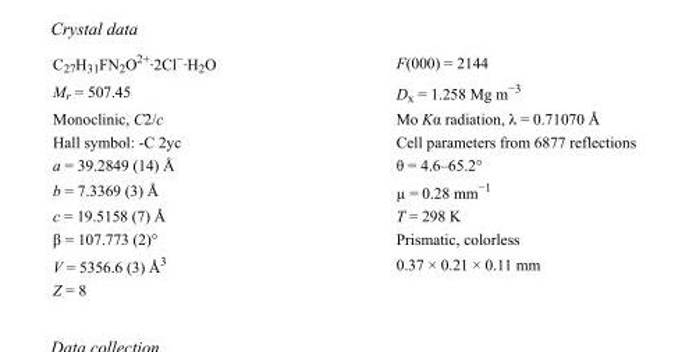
<table><tbody><tr><td>C<sub>27</sub>H<sub>31</sub>FN<sub>2</sub>O<sup>2+</sup>·2Cl<sup>−</sup>·H<sub>2</sub>O</td><td>F(000) = 2144</td></tr><tr><td>M<sub>r</sub> = 507.45</td><td>D<sub>x</sub> = 1.258 Mg m<sup>−3</sup></td></tr><tr><td>Monoclinic, C2/c</td><td>Mo Kα radiation, λ = 0.71070 Å</td></tr><tr><td>Hall symbol: -C 2yc</td><td>Cell parameters from 6877 reflections</td></tr><tr><td>a = 39.2849 (14) Å</td><td>θ = 4.6–65.2°</td></tr><tr><td>b = 7.3369 (3) Å</td><td>µ = 0.28 mm<sup>−1</sup></td></tr><tr><td>c = 19.5158 (7) Å</td><td>T = 298 K</td></tr><tr><td>β = 107.773 (2)°</td><td>Prismatic, colorless</td></tr><tr><td>V = 5356.6 (3) Å<sup>3</sup></td><td>0.37 × 0.21 × 0.11 mm</td></tr><tr><td>Z = 8</td><td></td></tr></tbody></table>